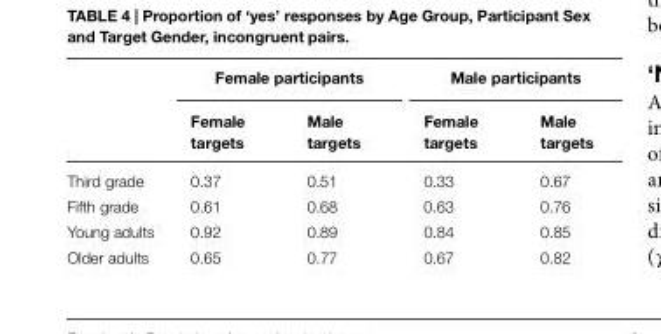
<table><thead><tr><td rowspan="2"></td><td colspan="2">Female participants</td><td colspan="2">Male participants</td></tr><tr><td>Female targets</td><td>Male targets</td><td>Female targets</td><td>Male targets</td></tr></thead><tbody><tr><td>Third grade</td><td>0.37</td><td>0.51</td><td>0.33</td><td>0.67</td></tr><tr><td>Fifth grade</td><td>0.61</td><td>0.68</td><td>0.63</td><td>0.76</td></tr><tr><td>Young adults</td><td>0.92</td><td>0.89</td><td>0.84</td><td>0.85</td></tr><tr><td>Older adults</td><td>0.65</td><td>0.77</td><td>0.67</td><td>0.82</td></tr></tbody></table>